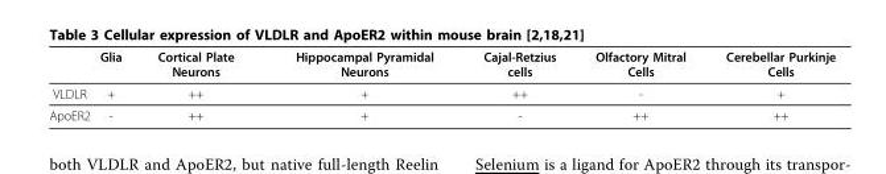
<table><thead><tr><td></td><td>Glia</td><td>Cortical Plate Neurons</td><td>Hippocampal Pyramidal Neurons</td><td>Cajal-Retzius cells</td><td>Olfactory Mitral Cells</td><td>Cerebellar Purkinje Cells</td></tr></thead><tbody><tr><td>VLDLR</td><td>+</td><td>++</td><td>+</td><td>++</td><td>-</td><td>+</td></tr><tr><td>ApoER2</td><td>-</td><td>++</td><td>+</td><td>-</td><td>++</td><td>++</td></tr></tbody></table>